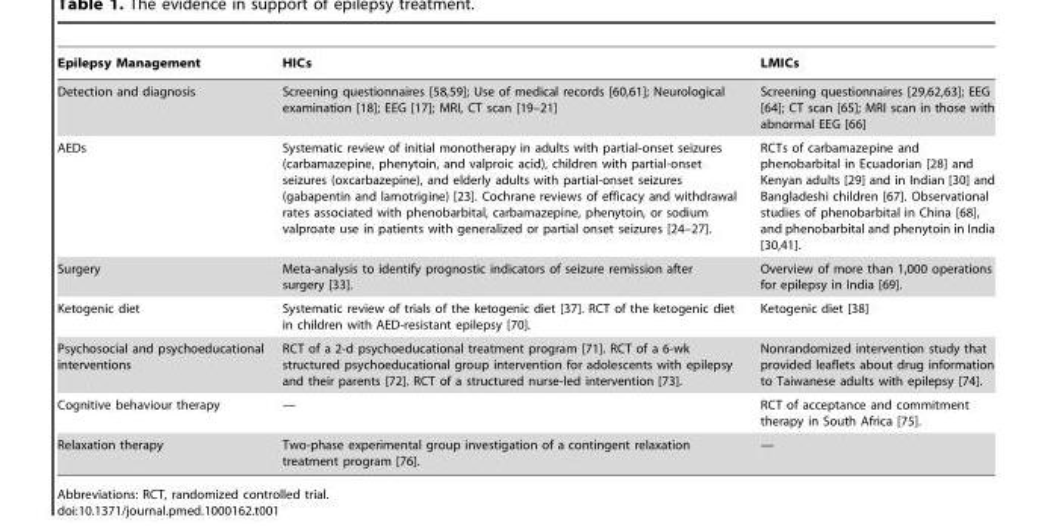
<table><thead><tr><td>Epilepsy Management</td><td>HICs</td><td>LMICs</td></tr></thead><tbody><tr><td>Detection and diagnosis</td><td>Screening questionnaires [58,59]; Use of medical records [60,61]; Neurological examination [18]; EEG [17]; MRI, CT scan [19–21]</td><td>Screening questionnaires [29,62,63]; EEG [64]; CT scan [65]; MRI scan in those with abnormal EEG [66]</td></tr><tr><td>AEDs</td><td>Systematic review of initial monotherapy in adults with partial-onset seizures (carbamazepine, phenytoin, and valproic acid), children with partial-onset seizures (oxcarbazepine), and elderly adults with partial-onset seizures (gabapentin and lamotrigine) [23]. Cochrane reviews of efficacy and withdrawal rates associated with phenobarbital, carbamazepine, phenytoin, or sodium valproate use in patients with generalized or partial onset seizures [24–27].</td><td>RCTs of carbamazepine and phenobarbital in Ecuadorian [28] and Kenyan adults [29] and in Indian [30] and Bangladeshi children [67]. Observational studies of phenobarbital in China [68], and phenobarbital and phenytoin in India [30,41].</td></tr><tr><td>Surgery</td><td>Meta-analysis to identify prognostic indicators of seizure remission after surgery [33].</td><td>Overview of more than 1,000 operations for epilepsy in India [69].</td></tr><tr><td>Ketogenic diet</td><td>Systematic review of trials of the ketogenic diet [37]. RCT of the ketogenic diet in children with AED-resistant epilepsy [70].</td><td>Ketogenic diet [38]</td></tr><tr><td>Psychosocial and psychoeducational interventions</td><td>RCT of a 2-d psychoeducational treatment program [71]. RCT of a 6-wk structured psychoeducational group intervention for adolescents with epilepsy and their parents [72]. RCT of a structured nurse-led intervention [73].</td><td>Nonrandomized intervention study that provided leaflets about drug information to Taiwanese adults with epilepsy [74].</td></tr><tr><td>Cognitive behaviour therapy</td><td>—</td><td>RCT of acceptance and commitment therapy in South Africa [75].</td></tr><tr><td>Relaxation therapy</td><td>Two-phase experimental group investigation of a contingent relaxation treatment program [76].</td><td>—</td></tr></tbody></table>